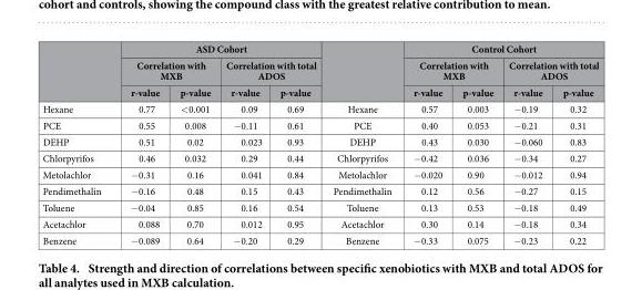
<table><thead><tr><td rowspan="3"></td><td colspan="4">ASD Cohort</td><td rowspan="3"></td><td colspan="4">Control Cohort</td></tr><tr><td colspan="2">Correlation with MXB</td><td colspan="2">Correlation with total ADOS</td><td colspan="2">Correlation with MXB</td><td colspan="2">Correlation with total ADOS</td></tr><tr><td>r-value</td><td>p-value</td><td>r-value</td><td>p-value</td><td>r-value</td><td>p-value</td><td>r-value</td><td>p-value</td></tr></thead><tbody><tr><td>Hexane</td><td>0.77</td><td>&lt; 0.001</td><td>0.09</td><td>0.69</td><td>Hexane</td><td>0.57</td><td>0.003</td><td>− 0.19</td><td>0.32</td></tr><tr><td>PCE</td><td>0.55</td><td>0.008</td><td>− 0.11</td><td>0.61</td><td>PCE</td><td>0.40</td><td>0.053</td><td>− 0.21</td><td>0.31</td></tr><tr><td>DEHP</td><td>0.51</td><td>0.02</td><td>0.023</td><td>0.93</td><td>DEHP</td><td>0.43</td><td>0.030</td><td>− 0.060</td><td>0.83</td></tr><tr><td>Chlorpyrifos</td><td>0.46</td><td>0.032</td><td>0.29</td><td>0.44</td><td>Chlorpyrifos</td><td>− 0.42</td><td>0.036</td><td>− 0.34</td><td>0.27</td></tr><tr><td>Metolachlor</td><td>− 0.31</td><td>0.16</td><td>0.041</td><td>0.84</td><td>Metolachlor</td><td>− 0.020</td><td>0.90</td><td>− 0.012</td><td>0.94</td></tr><tr><td>Pendimethalin</td><td>− 0.16</td><td>0.48</td><td>0.15</td><td>0.43</td><td>Pendimethalin</td><td>0.12</td><td>0.56</td><td>− 0.27</td><td>0.15</td></tr><tr><td>Toluene</td><td>− 0.04</td><td>0.85</td><td>0.16</td><td>0.54</td><td>Toluene</td><td>0.13</td><td>0.53</td><td>− 0.18</td><td>0.49</td></tr><tr><td>Acetachlor</td><td>0.088</td><td>0.70</td><td>0.012</td><td>0.95</td><td>Acetachlor</td><td>0.30</td><td>0.14</td><td>− 0.18</td><td>0.34</td></tr><tr><td>Benzene</td><td>− 0.089</td><td>0.64</td><td>− 0.20</td><td>0.29</td><td>Benzene</td><td>− 0.33</td><td>0.075</td><td>− 0.23</td><td>0.22</td></tr></tbody></table>